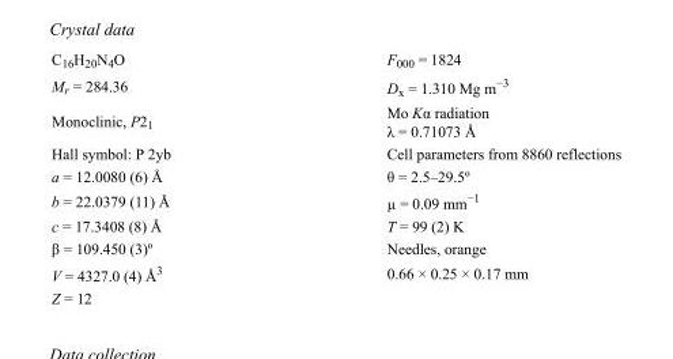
<table><tbody><tr><td>C<sub>16</sub>H<sub>20</sub>N<sub>4</sub>O</td><td>F<sub>000</sub> = 1824</td></tr><tr><td>M<sub>r</sub> = 284.36</td><td>D<sub>x</sub> = 1.310 Mg m<sup>−3</sup></td></tr><tr><td>Monoclinic, P2<sub>1</sub></td><td>Mo Kα radiation λ = 0.71073 Å</td></tr><tr><td>Hall symbol: P 2yb</td><td>Cell parameters from 8860 reflections</td></tr><tr><td>a = 12.0080 (6) Å</td><td>θ = 2.5–29.5º</td></tr><tr><td>b = 22.0379 (11) Å</td><td>µ = 0.09 mm<sup>−1</sup></td></tr><tr><td>c = 17.3408 (8) Å</td><td>T = 99 (2) K</td></tr><tr><td>β = 109.450 (3)º</td><td>Needles, orange</td></tr><tr><td>V = 4327.0 (4) Å<sup>3</sup></td><td>0.66 × 0.25 × 0.17 mm</td></tr><tr><td>Z = 12</td><td></td></tr></tbody></table>